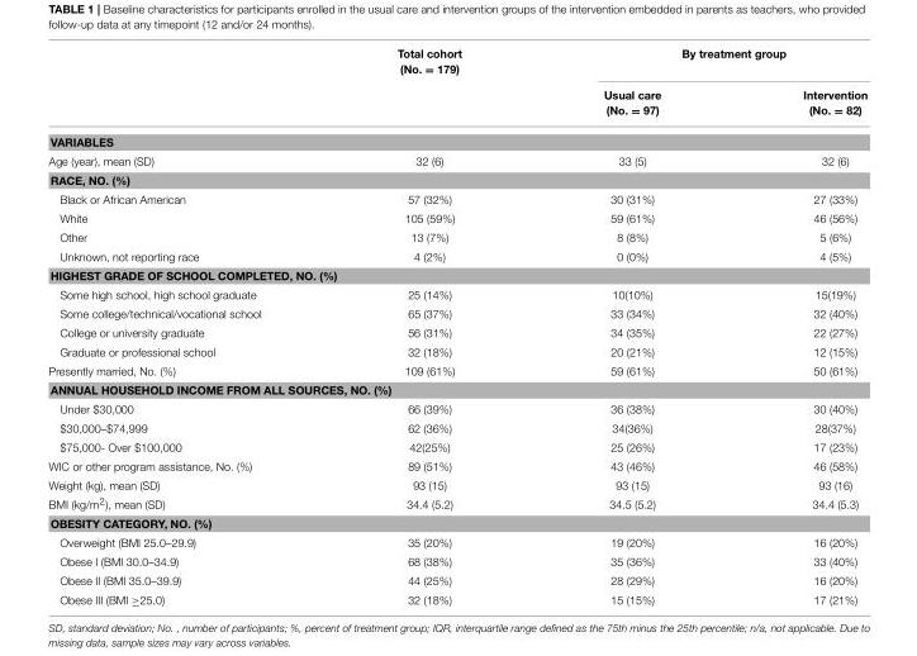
<table><thead><tr><td rowspan="2"></td><td rowspan="2">Total cohort (No. = 179)</td><td colspan="2">By treatment group</td></tr><tr><td>Usual care (No. = 97)</td><td>Intervention (No. = 82)</td></tr></thead><tbody><tr><td colspan="4">VARIABLES</td></tr><tr><td>Age (year), mean (SD)</td><td>32 (6)</td><td>33 (5)</td><td>32 (6)</td></tr><tr><td colspan="4">RACE, NO. (%)</td></tr><tr><td>Black or African American</td><td>57 (32%)</td><td>30 (31%)</td><td>27 (33%)</td></tr><tr><td>White</td><td>105 (59%)</td><td>59 (61%)</td><td>46 (56%)</td></tr><tr><td>Other</td><td>13 (7%)</td><td>8 (8%)</td><td>5 (6%)</td></tr><tr><td>Unknown, not reporting race</td><td>4 (2%)</td><td>0 (0%)</td><td>4 (5%)</td></tr><tr><td colspan="4">HIGHEST GRADE OF SCHOOL COMPLETED, NO. (%)</td></tr><tr><td>Some high school, high school graduate</td><td>25 (14%)</td><td>10(10%)</td><td>15(19%)</td></tr><tr><td>Some college/technical/vocational school</td><td>65 (37%)</td><td>33 (34%)</td><td>32 (40%)</td></tr><tr><td>College or university graduate</td><td>56 (31%)</td><td>34 (35%)</td><td>22 (27%)</td></tr><tr><td>Graduate or professional school</td><td>32 (18%)</td><td>20 (21%)</td><td>12 (15%)</td></tr><tr><td>Presently married, No. (%)</td><td>109 (61%)</td><td>59 (61%)</td><td>50 (61%)</td></tr><tr><td colspan="4">ANNUAL HOUSEHOLD INCOME FROM ALL SOURCES, NO. (%)</td></tr><tr><td>Under $30,000</td><td>66 (39%)</td><td>36 (38%)</td><td>30 (40%)</td></tr><tr><td>$30,000–$74,999</td><td>62 (36%)</td><td>34(36%)</td><td>28(37%)</td></tr><tr><td>$75,000- Over $100,000</td><td>42(25%)</td><td>25 (26%)</td><td>17 (23%)</td></tr><tr><td>WIC or other program assistance, No. (%)</td><td>89 (51%)</td><td>43 (46%)</td><td>46 (58%)</td></tr><tr><td>Weight (kg), mean (SD)</td><td>93 (15)</td><td>93 (15)</td><td>93 (16)</td></tr><tr><td>BMI (kg/m<sup>2</sup>), mean (SD)</td><td>34.4 (5.2)</td><td>34.5 (5.2)</td><td>34.4 (5.3)</td></tr><tr><td colspan="4">OBESITY CATEGORY, NO. (%)</td></tr><tr><td>Overweight (BMI 25.0–29.9)</td><td>35 (20%)</td><td>19 (20%)</td><td>16 (20%)</td></tr><tr><td>Obese I (BMI 30.0–34.9)</td><td>68 (38%)</td><td>35 (36%)</td><td>33 (40%)</td></tr><tr><td>Obese II (BMI 35.0–39.9)</td><td>44 (25%)</td><td>28 (29%)</td><td>16 (20%)</td></tr><tr><td>Obese III (BMI ≥25.0)</td><td>32 (18%)</td><td>15 (15%)</td><td>17 (21%)</td></tr></tbody></table>